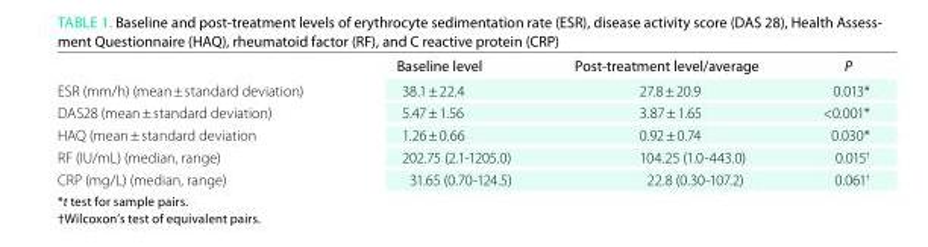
<table><thead><tr><td></td><td>Baseline level</td><td>Post-treatment level/average</td><td>P</td></tr></thead><tbody><tr><td>ESR (mm/h) (mean ± standard deviation)</td><td>38.1 ± 22.4</td><td>27.8 ± 20.9</td><td>0.013*</td></tr><tr><td>DAS28 (mean ± standard deviation)</td><td>5.47 ± 1.56</td><td>3.87 ± 1.65</td><td>&lt;0.001*</td></tr><tr><td>HAQ (mean ± standard deviation</td><td>1.26 ± 0.66</td><td>0.92 ± 0.74</td><td>0.030*</td></tr><tr><td>RF (IU/mL) (median, range)</td><td>202.75 (2.1-1205.0)</td><td>104.25 (1.0-443.0)</td><td>0.015<sup>†</sup></td></tr><tr><td>CRP (mg/L) (median, range)</td><td>31.65 (0.70-124.5)</td><td>22.8 (0.30-107.2)</td><td>0.061<sup>†</sup></td></tr></tbody></table>